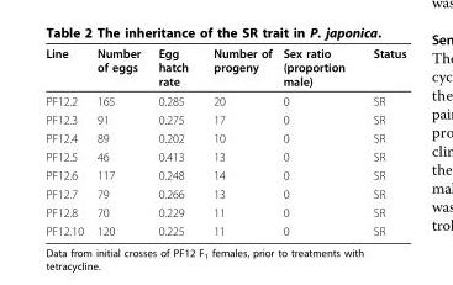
<table><thead><tr><td>Line</td><td>Number of eggs</td><td>Egg hatch rate</td><td>Number of progeny</td><td>Sex ratio (proportion male)</td><td>Status</td></tr></thead><tbody><tr><td>PF12.2</td><td>165</td><td>0.285</td><td>20</td><td>0</td><td>SR</td></tr><tr><td>PF12.3</td><td>91</td><td>0.275</td><td>17</td><td>0</td><td>SR</td></tr><tr><td>PF12.4</td><td>89</td><td>0.202</td><td>10</td><td>0</td><td>SR</td></tr><tr><td>PF12.5</td><td>46</td><td>0.413</td><td>13</td><td>0</td><td>SR</td></tr><tr><td>PF12.6</td><td>117</td><td>0.248</td><td>14</td><td>0</td><td>SR</td></tr><tr><td>PF12.7</td><td>79</td><td>0.266</td><td>13</td><td>0</td><td>SR</td></tr><tr><td>PF12.8</td><td>70</td><td>0.229</td><td>11</td><td>0</td><td>SR</td></tr><tr><td>PF12.10</td><td>120</td><td>0.225</td><td>11</td><td>0</td><td>SR</td></tr></tbody></table>